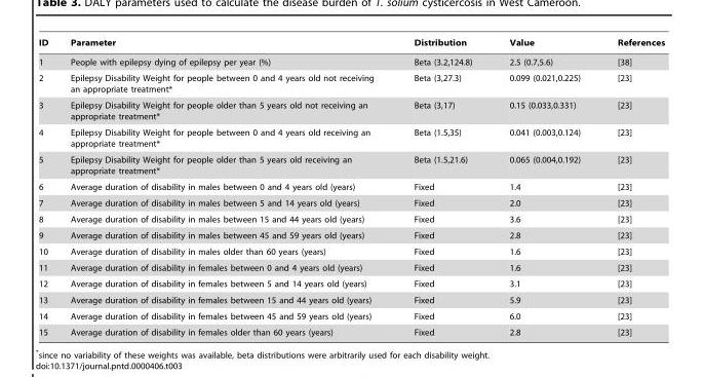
<table><thead><tr><td>ID</td><td>Parameter</td><td>Distribution</td><td>Value</td><td>References</td></tr></thead><tbody><tr><td>1</td><td>People with epilepsy dying of epilepsy per year (%)</td><td>Beta (3.2,124.8)</td><td>2.5 (0.7,5.6)</td><td>[38]</td></tr><tr><td>2</td><td>Epilepsy Disability Weight for people between 0 and 4 years old not receiving an appropriate treatment*</td><td>Beta (3,27.3)</td><td>0.099 (0.021,0.225)</td><td>[23]</td></tr><tr><td>3</td><td>Epilepsy Disability Weight for people older than 5 years old not receiving an appropriate treatment*</td><td>Beta (3,17)</td><td>0.15 (0.033,0.331)</td><td>[23]</td></tr><tr><td>4</td><td>Epilepsy Disability Weight for people between 0 and 4 years old receiving an appropriate treatment*</td><td>Beta (1.5,35)</td><td>0.041 (0.003,0.124)</td><td>[23]</td></tr><tr><td>5</td><td>Epilepsy Disability Weight for people older than 5 years old receiving an appropriate treatment*</td><td>Beta (1.5,21.6)</td><td>0.065 (0.004,0.192)</td><td>[23]</td></tr><tr><td>6</td><td>Average duration of disability in males between 0 and 4 years old (years)</td><td>Fixed</td><td>1.4</td><td>[23]</td></tr><tr><td>7</td><td>Average duration of disability in males between 5 and 14 years old (years)</td><td>Fixed</td><td>2.0</td><td>[23]</td></tr><tr><td>8</td><td>Average duration of disability in males between 15 and 44 years old (years)</td><td>Fixed</td><td>3.6</td><td>[23]</td></tr><tr><td>9</td><td>Average duration of disability in males between 45 and 59 years old (years)</td><td>Fixed</td><td>2.8</td><td>[23]</td></tr><tr><td>10</td><td>Average duration of disability in males older than 60 years (years)</td><td>Fixed</td><td>1.6</td><td>[23]</td></tr><tr><td>11</td><td>Average duration of disability in females between 0 and 4 years old (years)</td><td>Fixed</td><td>1.6</td><td>[23]</td></tr><tr><td>12</td><td>Average duration of disability in females between 5 and 14 years old (years)</td><td>Fixed</td><td>3.1</td><td>[23]</td></tr><tr><td>13</td><td>Average duration of disability in females between 15 and 44 years old (years)</td><td>Fixed</td><td>5.9</td><td>[23]</td></tr><tr><td>14</td><td>Average duration of disability in females between 45 and 59 years old (years)</td><td>Fixed</td><td>6.0</td><td>[23]</td></tr><tr><td>15</td><td>Average duration of disability in females older than 60 years (years)</td><td>Fixed</td><td>2.8</td><td>[23]</td></tr></tbody></table>